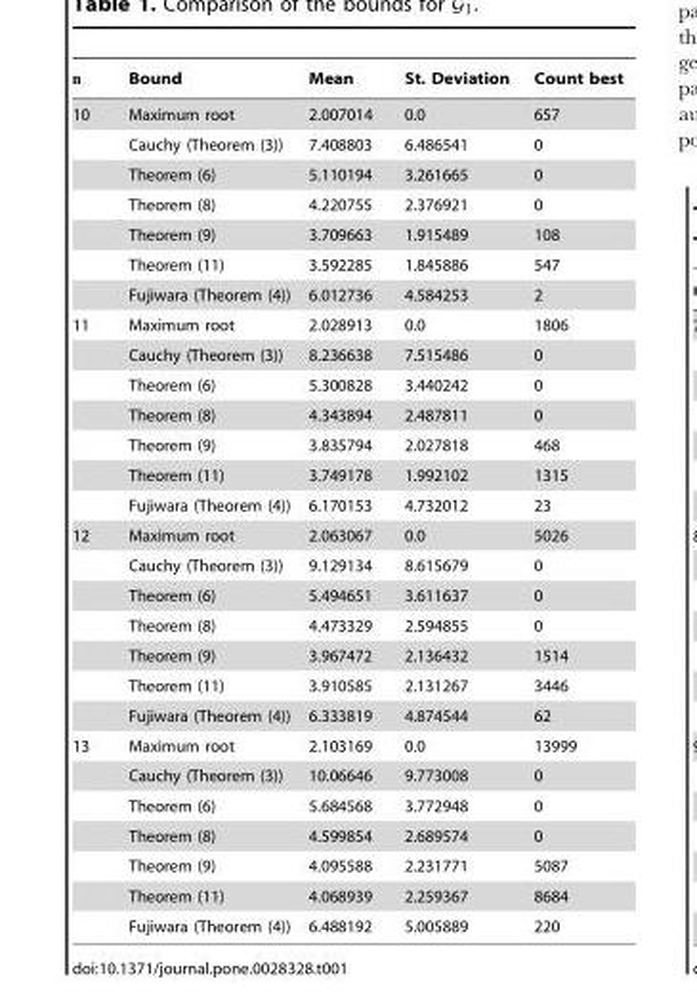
<table><thead><tr><td>n</td><td>Bound</td><td>Mean</td><td>St. Deviation</td><td>Count best</td></tr></thead><tbody><tr><td rowspan="7">10</td><td>Maximum root</td><td>2.007014</td><td>0.0</td><td>657</td></tr><tr><td>Cauchy (Theorem (3))</td><td>7.408803</td><td>6.486541</td><td>0</td></tr><tr><td>Theorem (6)</td><td>5.110194</td><td>3.261665</td><td>0</td></tr><tr><td>Theorem (8)</td><td>4.220755</td><td>2.376921</td><td>0</td></tr><tr><td>Theorem (9)</td><td>3.709663</td><td>1.915489</td><td>108</td></tr><tr><td>Theorem (11)</td><td>3.592285</td><td>1.845886</td><td>547</td></tr><tr><td>Fujiwara (Theorem (4))</td><td>6.012736</td><td>4.584253</td><td>2</td></tr><tr><td rowspan="7">11</td><td>Maximum root</td><td>2.028913</td><td>0.0</td><td>1806</td></tr><tr><td>Cauchy (Theorem (3))</td><td>8.236638</td><td>7.515486</td><td>0</td></tr><tr><td>Theorem (6)</td><td>5.300828</td><td>3.440242</td><td>0</td></tr><tr><td>Theorem (8)</td><td>4.343894</td><td>2.487811</td><td>0</td></tr><tr><td>Theorem (9)</td><td>3.835794</td><td>2.027818</td><td>468</td></tr><tr><td>Theorem (11)</td><td>3.749178</td><td>1.992102</td><td>1315</td></tr><tr><td>Fujiwara (Theorem (4))</td><td>6.170153</td><td>4.732012</td><td>23</td></tr><tr><td rowspan="7">12</td><td>Maximum root</td><td>2.063067</td><td>0.0</td><td>5026</td></tr><tr><td>Cauchy (Theorem (3))</td><td>9.129134</td><td>8.615679</td><td>0</td></tr><tr><td>Theorem (6)</td><td>5.494651</td><td>3.611637</td><td>0</td></tr><tr><td>Theorem (8)</td><td>4.473329</td><td>2.594855</td><td>0</td></tr><tr><td>Theorem (9)</td><td>3.967472</td><td>2.136432</td><td>1514</td></tr><tr><td>Theorem (11)</td><td>3.910585</td><td>2.131267</td><td>3446</td></tr><tr><td>Fujiwara (Theorem (4))</td><td>6.333819</td><td>4.874544</td><td>62</td></tr><tr><td rowspan="7">13</td><td>Maximum root</td><td>2.103169</td><td>0.0</td><td>13999</td></tr><tr><td>Cauchy (Theorem (3))</td><td>10.06646</td><td>9.773008</td><td>0</td></tr><tr><td>Theorem (6)</td><td>5.684568</td><td>3.772948</td><td>0</td></tr><tr><td>Theorem (8)</td><td>4.599854</td><td>2.689574</td><td>0</td></tr><tr><td>Theorem (9)</td><td>4.095588</td><td>2.231771</td><td>5087</td></tr><tr><td>Theorem (11)</td><td>4.068939</td><td>2.259367</td><td>8684</td></tr><tr><td>Fujiwara (Theorem (4))</td><td>6.488192</td><td>5.005889</td><td>220</td></tr></tbody></table>